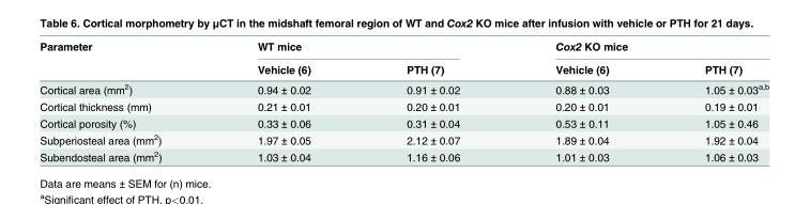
<table><thead><tr><td rowspan="2">Parameter</td><td colspan="2">WT mice</td><td colspan="2">Cox2 KO mice</td></tr><tr><td>Vehicle (6)</td><td>PTH (7)</td><td>Vehicle (6)</td><td>PTH (7)</td></tr></thead><tbody><tr><td>Cortical area (mm<sup>2</sup>)</td><td>0.94 ± 0.02</td><td>0.91 ± 0.02</td><td>0.88 ± 0.03</td><td>1.05 ± 0.03<sup>a,b</sup></td></tr><tr><td>Cortical thickness (mm)</td><td>0.21 ± 0.01</td><td>0.20 ± 0.01</td><td>0.20 ± 0.01</td><td>0.19 ± 0.01</td></tr><tr><td>Cortical porosity (%)</td><td>0.33 ± 0.06</td><td>0.31 ± 0.04</td><td>0.53 ± 0.11</td><td>1.05 ± 0.46</td></tr><tr><td>Subperiosteal area (mm<sup>2</sup>)</td><td>1.97 ± 0.05</td><td>2.12 ± 0.07</td><td>1.89 ± 0.04</td><td>1.92 ± 0.04</td></tr><tr><td>Subendosteal area (mm<sup>2</sup>)</td><td>1.03 ± 0.04</td><td>1.16 ± 0.06</td><td>1.01 ± 0.03</td><td>1.06 ± 0.03</td></tr></tbody></table>